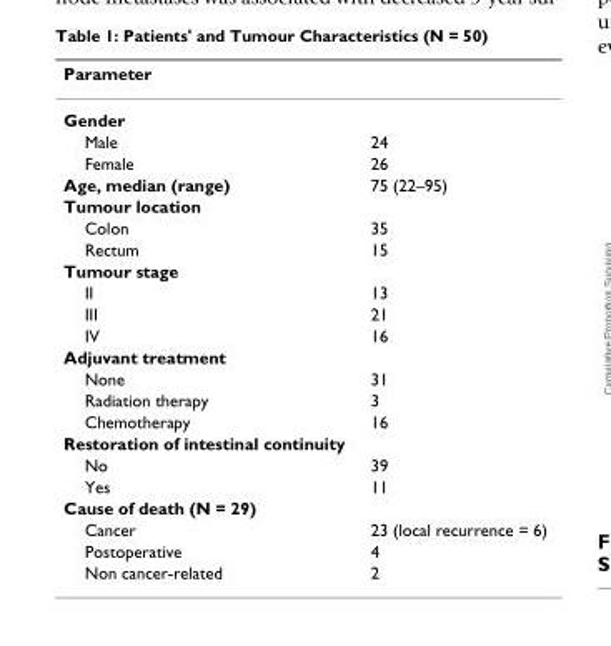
<table><thead><tr><td>Parameter</td><td></td></tr></thead><tbody><tr><td colspan="2">Gender</td></tr><tr><td>Male</td><td>24</td></tr><tr><td>Female</td><td>26</td></tr><tr><td>Age, median (range)</td><td>75 (22–95)</td></tr><tr><td colspan="2">Tumour location</td></tr><tr><td>Colon</td><td>35</td></tr><tr><td>Rectum</td><td>15</td></tr><tr><td colspan="2">Tumour stage</td></tr><tr><td>II</td><td>13</td></tr><tr><td>III</td><td>21</td></tr><tr><td>IV</td><td>16</td></tr><tr><td colspan="2">Adjuvant treatment</td></tr><tr><td>None</td><td>31</td></tr><tr><td>Radiation therapy</td><td>3</td></tr><tr><td>Chemotherapy</td><td>16</td></tr><tr><td colspan="2">Restoration of intestinal continuity</td></tr><tr><td>No</td><td>39</td></tr><tr><td>Yes</td><td>11</td></tr><tr><td colspan="2">Cause of death (N = 29)</td></tr><tr><td>Cancer</td><td>23 (local recurrence = 6)</td></tr><tr><td>Postoperative</td><td>4</td></tr><tr><td>Non cancer-related</td><td>2</td></tr></tbody></table>